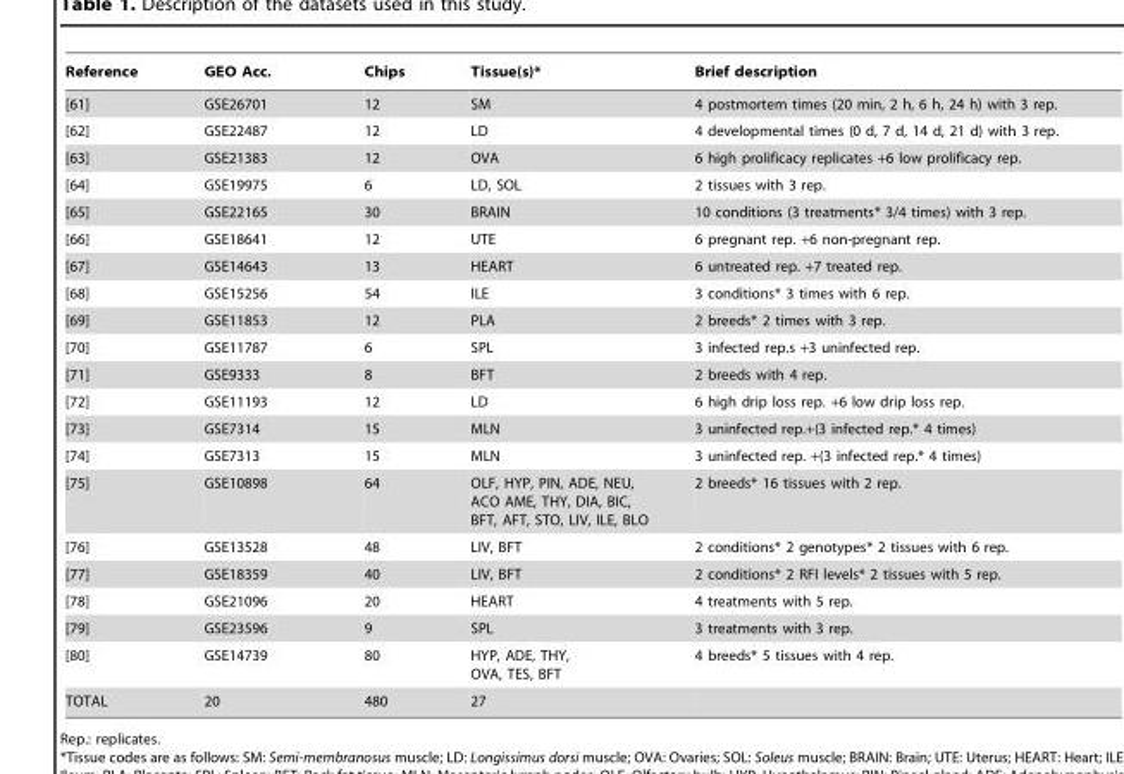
<table><thead><tr><td>Reference</td><td>GEO Acc.</td><td>Chips</td><td>Tissue(s)*</td><td>Brief description</td></tr></thead><tbody><tr><td>[61]</td><td>GSE26701</td><td>12</td><td>SM</td><td>4 postmortem times (20 min, 2 h, 6 h, 24 h) with 3 rep.</td></tr><tr><td>[62]</td><td>GSE22487</td><td>12</td><td>LD</td><td>4 developmental times (0 d, 7 d, 14 d, 21 d) with 3 rep.</td></tr><tr><td>[63]</td><td>GSE21383</td><td>12</td><td>OVA</td><td>6 high prolificacy replicates +6 low prolificacy rep.</td></tr><tr><td>[64]</td><td>GSE19975</td><td>6</td><td>LD, SOL</td><td>2 tissues with 3 rep.</td></tr><tr><td>[65]</td><td>GSE22165</td><td>30</td><td>BRAIN</td><td>10 conditions (3 treatments* 3/4 times) with 3 rep.</td></tr><tr><td>[66]</td><td>GSE18641</td><td>12</td><td>UTE</td><td>6 pregnant rep. +6 non-pregnant rep.</td></tr><tr><td>[67]</td><td>GSE14643</td><td>13</td><td>HEART</td><td>6 untreated rep. +7 treated rep.</td></tr><tr><td>[68]</td><td>GSE15256</td><td>54</td><td>ILE</td><td>3 conditions* 3 times with 6 rep.</td></tr><tr><td>[69]</td><td>GSE11853</td><td>12</td><td>PLA</td><td>2 breeds* 2 times with 3 rep.</td></tr><tr><td>[70]</td><td>GSE11787</td><td>6</td><td>SPL</td><td>3 infected rep.s +3 uninfected rep.</td></tr><tr><td>[71]</td><td>GSE9333</td><td>8</td><td>BFT</td><td>2 breeds with 4 rep.</td></tr><tr><td>[72]</td><td>GSE11193</td><td>12</td><td>LD</td><td>6 high drip loss rep. +6 low drip loss rep.</td></tr><tr><td>[73]</td><td>GSE7314</td><td>15</td><td>MLN</td><td>3 uninfected rep.+(3 infected rep.* 4 times)</td></tr><tr><td>[74]</td><td>GSE7313</td><td>15</td><td>MLN</td><td>3 uninfected rep. +(3 infected rep.* 4 times)</td></tr><tr><td>[75]</td><td>GSE10898</td><td>64</td><td>OLF, HYP, PIN, ADE, NEU, ACO AME, THY, DIA, BIC, BFT, AFT, STO, LIV, ILE, BLO</td><td>2 breeds* 16 tissues with 2 rep.</td></tr><tr><td>[76]</td><td>GSE13528</td><td>48</td><td>LIV, BFT</td><td>2 conditions* 2 genotypes* 2 tissues with 6 rep.</td></tr><tr><td>[77]</td><td>GSE18359</td><td>40</td><td>LIV, BFT</td><td>2 conditions* 2 RFI levels* 2 tissues with 5 rep.</td></tr><tr><td>[78]</td><td>GSE21096</td><td>20</td><td>HEART</td><td>4 treatments with 5 rep.</td></tr><tr><td>[79]</td><td>GSE23596</td><td>9</td><td>SPL</td><td>3 treatments with 3 rep.</td></tr><tr><td>[80]</td><td>GSE14739</td><td>80</td><td>HYP, ADE, THY, OVA, TES, BFT</td><td>4 breeds* 5 tissues with 4 rep.</td></tr><tr><td>TOTAL</td><td>20</td><td>480</td><td>27</td><td></td></tr></tbody></table>